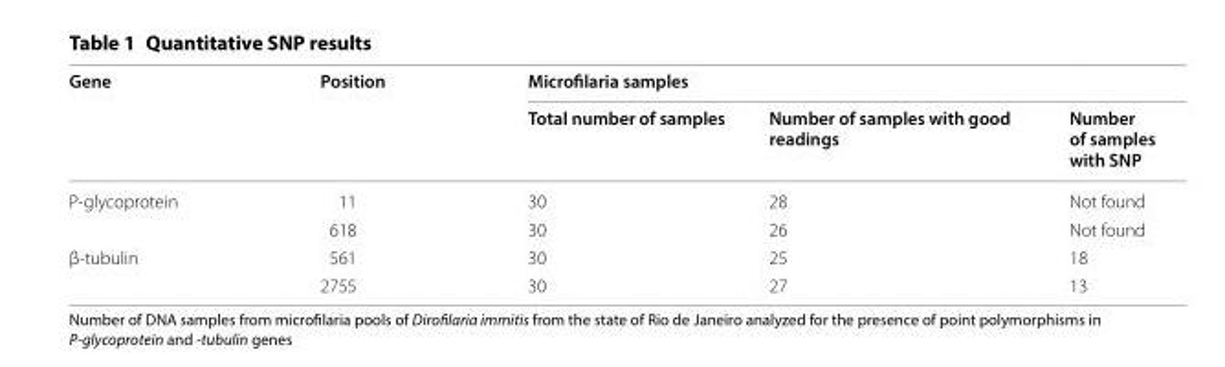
<table><thead><tr><td rowspan="2">Gene</td><td rowspan="2">Position</td><td colspan="3">Microfilaria samples</td></tr><tr><td>Total number of samples</td><td>Number of samples with good readings</td><td>Number of samples with SNP</td></tr></thead><tbody><tr><td rowspan="2">P‑glycoprotein</td><td>11</td><td>30</td><td>28</td><td>Not found</td></tr><tr><td>618</td><td>30</td><td>26</td><td>Not found</td></tr><tr><td rowspan="2">β‑tubulin</td><td>561</td><td>30</td><td>25</td><td>18</td></tr><tr><td>2755</td><td>30</td><td>27</td><td>13</td></tr></tbody></table>